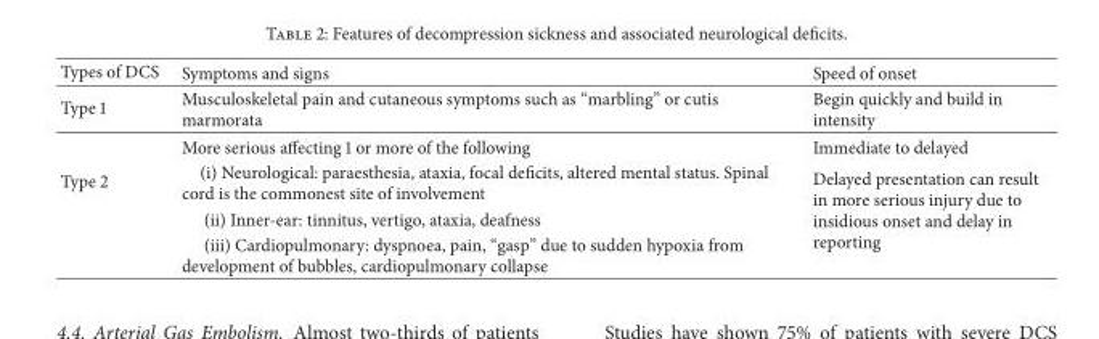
<table><thead><tr><td>Types of DCS</td><td>Symptoms and signs</td><td>Speed of onset</td></tr></thead><tbody><tr><td>Type 1</td><td>Musculoskeletal pain and cutaneous symptoms such as “marbling” or cutis marmorata</td><td>Begin quickly and build in intensity</td></tr><tr><td rowspan="4">Type 2</td><td>More serious affecting 1 or more of the following</td><td>Immediate to delayed</td></tr><tr><td>(i) Neurological: paraesthesia, ataxia, focal deficits, altered mental status. Spinal cord is the commonest site of involvement</td><td rowspan="3">Delayed presentation can result in more serious injury due to insidious onset and delay in reporting</td></tr><tr><td>(ii) Inner-ear: tinnitus, vertigo, ataxia, deafness</td></tr><tr><td>(iii) Cardiopulmonary: dyspnoea, pain, “gasp” due to sudden hypoxia from development of bubbles, cardiopulmonary collapse</td></tr></tbody></table>